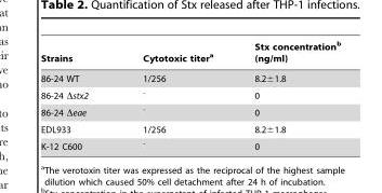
<table><thead><tr><td>Strains</td><td>Cytotoxic titer<sup>a</sup></td><td>Stx concentration<sup>b</sup> (ng/ml)</td></tr></thead><tbody><tr><td>86-24 WT</td><td>1/256</td><td>8.2±1.8</td></tr><tr><td>86-24 Δstx2</td><td><sup>-</sup></td><td>0</td></tr><tr><td>86-24 Δeae</td><td><sup>-</sup></td><td>0</td></tr><tr><td>EDL933</td><td>1/256</td><td>8.2±1.8</td></tr><tr><td>K-12 C600</td><td><sup>-</sup></td><td>0</td></tr></tbody></table>